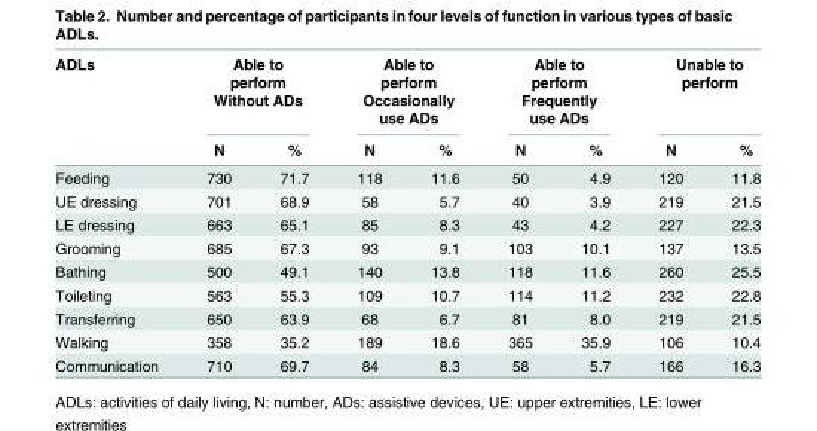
<table><thead><tr><td rowspan="2">ADLs</td><td colspan="2">Able to perform Without ADs</td><td colspan="2">Able to perform Occasionally use ADs</td><td colspan="2">Able to perform Frequently use ADs</td><td colspan="2">Unable to perform</td></tr><tr><td>N</td><td>%</td><td>N</td><td>%</td><td>N</td><td>%</td><td>N</td><td>%</td></tr></thead><tbody><tr><td>Feeding</td><td>730</td><td>71.7</td><td>118</td><td>11.6</td><td>50</td><td>4.9</td><td>120</td><td>11.8</td></tr><tr><td>UE dressing</td><td>701</td><td>68.9</td><td>58</td><td>5.7</td><td>40</td><td>3.9</td><td>219</td><td>21.5</td></tr><tr><td>LE dressing</td><td>663</td><td>65.1</td><td>85</td><td>8.3</td><td>43</td><td>4.2</td><td>227</td><td>22.3</td></tr><tr><td>Grooming</td><td>685</td><td>67.3</td><td>93</td><td>9.1</td><td>103</td><td>10.1</td><td>137</td><td>13.5</td></tr><tr><td>Bathing</td><td>500</td><td>49.1</td><td>140</td><td>13.8</td><td>118</td><td>11.6</td><td>260</td><td>25.5</td></tr><tr><td>Toileting</td><td>563</td><td>55.3</td><td>109</td><td>10.7</td><td>114</td><td>11.2</td><td>232</td><td>22.8</td></tr><tr><td>Transferring</td><td>650</td><td>63.9</td><td>68</td><td>6.7</td><td>81</td><td>8.0</td><td>219</td><td>21.5</td></tr><tr><td>Walking</td><td>358</td><td>35.2</td><td>189</td><td>18.6</td><td>365</td><td>35.9</td><td>106</td><td>10.4</td></tr><tr><td>Communication</td><td>710</td><td>69.7</td><td>84</td><td>8.3</td><td>58</td><td>5.7</td><td>166</td><td>16.3</td></tr></tbody></table>